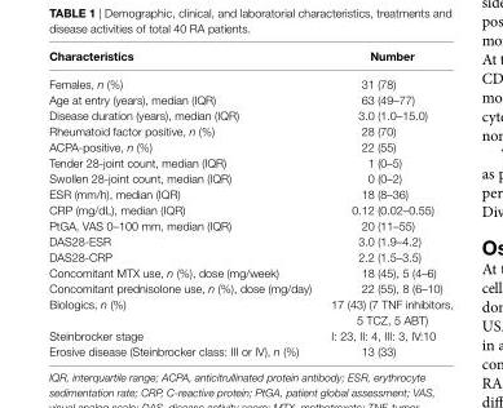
<table><thead><tr><td>characteristics</td><td>number</td></tr></thead><tbody><tr><td>Females, n (%)</td><td>31 (78)</td></tr><tr><td>Age at entry (years), median (IQR)</td><td>63 (49–77)</td></tr><tr><td>Disease duration (years), median (IQR)</td><td>3.0 (1.0–15.0)</td></tr><tr><td>Rheumatoid factor positive, n (%)</td><td>28 (70)</td></tr><tr><td>ACPA-positive, n (%)</td><td>22 (55)</td></tr><tr><td>Tender 28-joint count, median (IQR)</td><td>1 (0–5)</td></tr><tr><td>Swollen 28-joint count, median (IQR)</td><td>0 (0–2)</td></tr><tr><td>ESR (mm/h), median (IQR)</td><td>18 (8–36)</td></tr><tr><td>CRP (mg/dL), median (IQR)</td><td>0.12 (0.02–0.55)</td></tr><tr><td>PtGA, VAS 0–100 mm, median (IQR)</td><td>20 (11–55)</td></tr><tr><td>DAS28-ESR</td><td>3.0 (1.9–4.2)</td></tr><tr><td>DAS28-CRP</td><td>2.2 (1.5–3.5)</td></tr><tr><td>Concomitant MTX use, n (%), dose (mg/week)</td><td>18 (45), 5 (4–6)</td></tr><tr><td>Concomitant prednisolone use, n (%), dose (mg/day)</td><td>22 (55), 8 (6–10)</td></tr><tr><td>Biologics, n (%)</td><td>17 (43) (7 TNF inhibitors, 5 TCZ, 5 ABT)</td></tr><tr><td>Steinbrocker stage</td><td>I: 23, II: 4, III: 3, IV:10</td></tr><tr><td>Erosive disease (Steinbrocker class: III or IV), n (%)</td><td>13 (33)</td></tr></tbody></table>